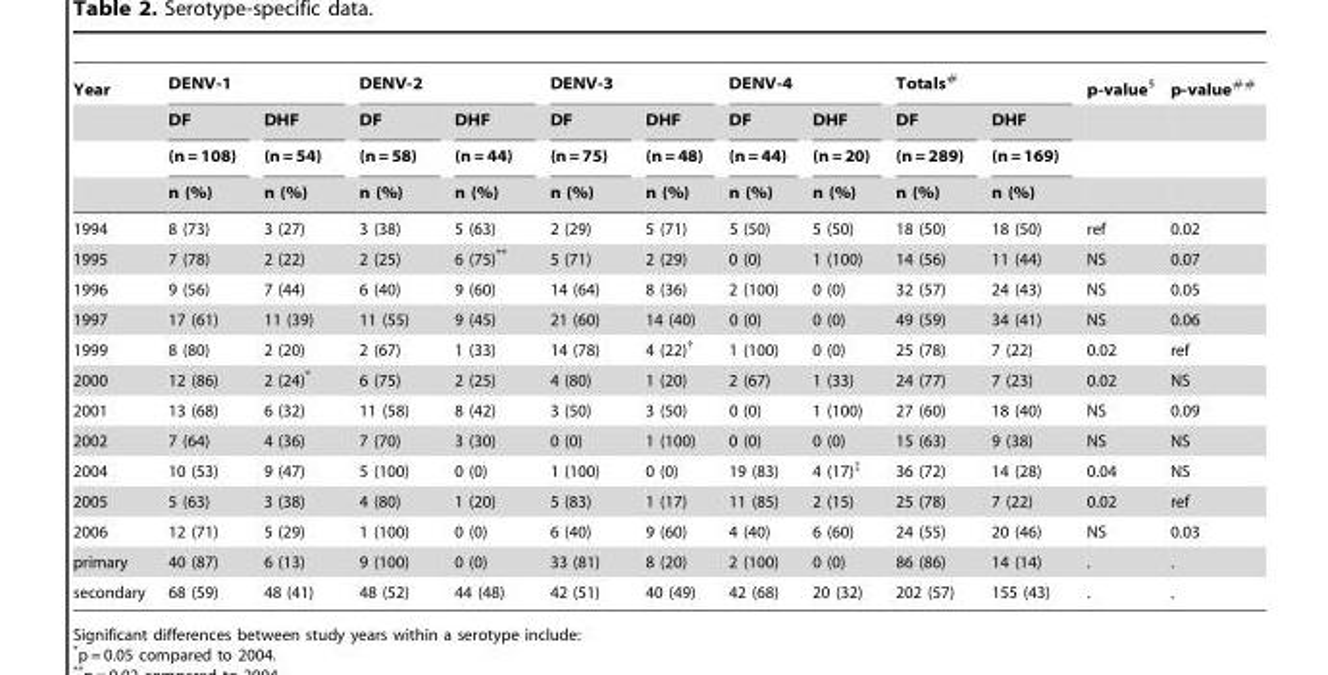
<table><thead><tr><td rowspan="4">Year</td><td colspan="2">DENV-1</td><td colspan="2">DENV-2</td><td colspan="2">DENV-3</td><td colspan="2">DENV-4</td><td colspan="2">Totals#</td><td rowspan="4">p-value§</td><td rowspan="4">p-value##</td></tr><tr><td rowspan="3">DF (n = 108) n (%)</td><td rowspan="3">DHF (n = 54) n (%)</td><td rowspan="3">DF (n = 58) n (%)</td><td rowspan="3">DHF (n = 44) n (%)</td><td rowspan="3">DF (n = 75) n (%)</td><td rowspan="3">DHF (n = 48) n (%)</td><td rowspan="3">DF (n = 44) n (%)</td><td rowspan="3">DHF (n = 20) n (%)</td><td rowspan="3">DF (n = 289) n (%)</td><td rowspan="3">DHF (n = 169) n (%)</td></tr><tr></tr><tr></tr></thead><tbody><tr><td>1994</td><td>8 (73)</td><td>3 (27)</td><td>3 (38)</td><td>5 (63)</td><td>2 (29)</td><td>5 (71)</td><td>5 (50)</td><td>5 (50)</td><td>18 (50)</td><td>18 (50)</td><td>ref</td><td>0.02</td></tr><tr><td>1995</td><td>7 (78)</td><td>2 (22)</td><td>2 (25)</td><td>6 (75)**</td><td>5 (71)</td><td>2 (29)</td><td>0 (0)</td><td>1 (100)</td><td>14 (56)</td><td>11 (44)</td><td>NS</td><td>0.07</td></tr><tr><td>1996</td><td>9 (56)</td><td>7 (44)</td><td>6 (40)</td><td>9 (60)</td><td>14 (64)</td><td>8 (36)</td><td>2 (100)</td><td>0 (0)</td><td>32 (57)</td><td>24 (43)</td><td>NS</td><td>0.05</td></tr><tr><td>1997</td><td>17 (61)</td><td>11 (39)</td><td>11 (55)</td><td>9 (45)</td><td>21 (60)</td><td>14 (40)</td><td>0 (0)</td><td>0 (0)</td><td>49 (59)</td><td>34 (41)</td><td>NS</td><td>0.06</td></tr><tr><td>1999</td><td>8 (80)</td><td>2 (20)</td><td>2 (67)</td><td>1 (33)</td><td>14 (78)</td><td>4 (22)†</td><td>1 (100)</td><td>0 (0)</td><td>25 (78)</td><td>7 (22)</td><td>0.02</td><td>ref</td></tr><tr><td>2000</td><td>12 (86)</td><td>2 (24)*</td><td>6 (75)</td><td>2 (25)</td><td>4 (80)</td><td>1 (20)</td><td>2 (67)</td><td>1 (33)</td><td>24 (77)</td><td>7 (23)</td><td>0.02</td><td>NS</td></tr><tr><td>2001</td><td>13 (68)</td><td>6 (32)</td><td>11 (58)</td><td>8 (42)</td><td>3 (50)</td><td>3 (50)</td><td>0 (0)</td><td>1 (100)</td><td>27 (60)</td><td>18 (40)</td><td>NS</td><td>0.09</td></tr><tr><td>2002</td><td>7 (64)</td><td>4 (36)</td><td>7 (70)</td><td>3 (30)</td><td>0 (0)</td><td>1 (100)</td><td>0 (0)</td><td>0 (0)</td><td>15 (63)</td><td>9 (38)</td><td>NS</td><td>NS</td></tr><tr><td>2004</td><td>10 (53)</td><td>9 (47)</td><td>5 (100)</td><td>0 (0)</td><td>1 (100)</td><td>0 (0)</td><td>19 (83)</td><td>4 (17)‡</td><td>36 (72)</td><td>14 (28)</td><td>0.04</td><td>NS</td></tr><tr><td>2005</td><td>5 (63)</td><td>3 (38)</td><td>4 (80)</td><td>1 (20)</td><td>5 (83)</td><td>1 (17)</td><td>11 (85)</td><td>2 (15)</td><td>25 (78)</td><td>7 (22)</td><td>0.02</td><td>ref</td></tr><tr><td>2006</td><td>12 (71)</td><td>5 (29)</td><td>1 (100)</td><td>0 (0)</td><td>6 (40)</td><td>9 (60)</td><td>4 (40)</td><td>6 (60)</td><td>24 (55)</td><td>20 (46)</td><td>NS</td><td>0.03</td></tr><tr><td>primary</td><td>40 (87)</td><td>6 (13)</td><td>9 (100)</td><td>0 (0)</td><td>33 (81)</td><td>8 (20)</td><td>2 (100)</td><td>0 (0)</td><td>86 (86)</td><td>14 (14)</td><td>.</td><td>.</td></tr><tr><td>secondary</td><td>68 (59)</td><td>48 (41)</td><td>48 (52)</td><td>44 (48)</td><td>42 (51)</td><td>40 (49)</td><td>42 (68)</td><td>20 (32)</td><td>202 (57)</td><td>155 (43)</td><td>.</td><td>.</td></tr></tbody></table>